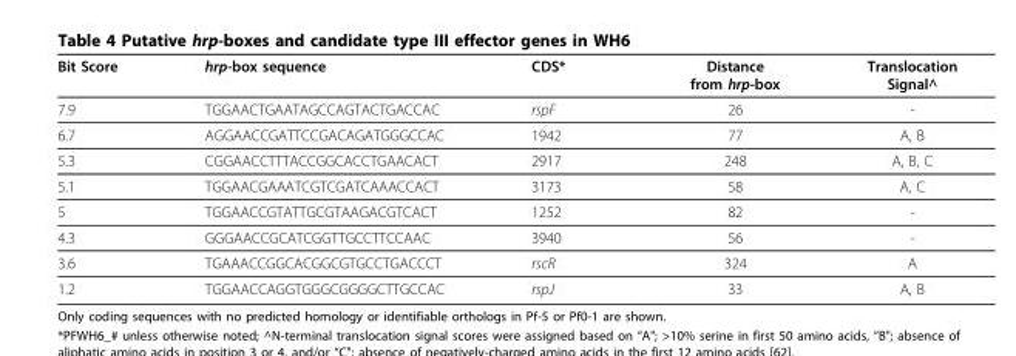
<table><thead><tr><td>Bit Score</td><td>hrp-box sequence</td><td>CDS*</td><td>Distance from hrp-box</td><td>Translocation Signal^</td></tr></thead><tbody><tr><td>7.9</td><td>TGGAACTGAATAGCCAGTACTGACCAC</td><td>rspF</td><td>26</td><td>-</td></tr><tr><td>6.7</td><td>AGGAACCGATTCCGACAGATGGGCCAC</td><td>1942</td><td>77</td><td>A, B</td></tr><tr><td>5.3</td><td>CGGAACCTTTACCGGCACCTGAACACT</td><td>2917</td><td>248</td><td>A, B, C</td></tr><tr><td>5.1</td><td>TGGAACGAAATCGTCGATCAAACCACT</td><td>3173</td><td>58</td><td>A, C</td></tr><tr><td>5</td><td>TGGAACCGTATTGCGTAAGACGTCACT</td><td>1252</td><td>82</td><td>-</td></tr><tr><td>4.3</td><td>GGGAACCGCATCGGTTGCCTTCCAAC</td><td>3940</td><td>56</td><td>-</td></tr><tr><td>3.6</td><td>TGAAACCGGCACGGCGTGCCTGACCCT</td><td>rscR</td><td>324</td><td>A</td></tr><tr><td>1.2</td><td>TGGAACCAGGTGGGCGGGGCTTGCCAC</td><td>rspJ</td><td>33</td><td>A, B</td></tr></tbody></table>